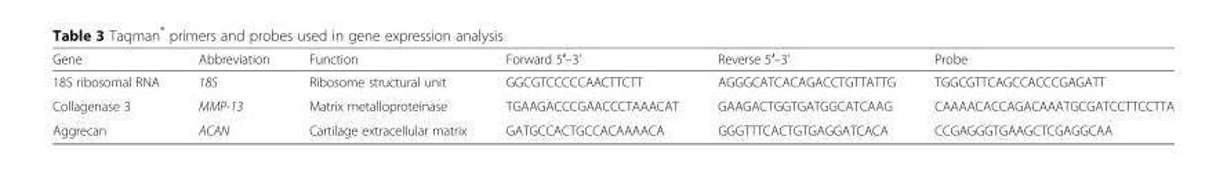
<table><thead><tr><td>Gene</td><td>Abbreviation</td><td>Function</td><td>Forward 5′–3’</td><td>Reverse 5′–3’</td><td>Probe</td></tr></thead><tbody><tr><td>18S ribosomal RNA</td><td>18S</td><td>Ribosome structural unit</td><td>GGCGTCCCCCAACTTCTT</td><td>AGGGCATCACAGACCTGTTATTG</td><td>TGGCGTTCAGCCACCCGAGATT</td></tr><tr><td>Collagenase 3</td><td>MMP-13</td><td>Matrix metalloproteinase</td><td>TGAAGACCCGAACCCTAAACAT</td><td>GAAGACTGGTGATGGCATCAAG</td><td>CAAAACACCAGACAAATGCGATCCTTCCTTA</td></tr><tr><td>Aggrecan</td><td>ACAN</td><td>Cartilage extracellular matrix</td><td>GATGCCACTGCCACAAAACA</td><td>GGGTTTCACTGTGAGGATCACA</td><td>CCGAGGGTGAAGCTCGAGGCAA</td></tr></tbody></table>